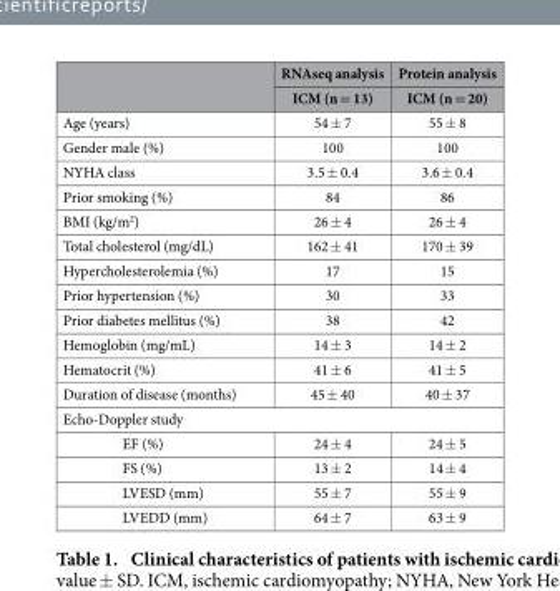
<table><thead><tr><td rowspan="2"></td><td rowspan="2">RNAseq analysis ICM (n = 13)</td><td rowspan="2">Protein analysis ICM (n = 20)</td></tr><tr></tr></thead><tbody><tr><td>Age (years)</td><td>54 ± 7</td><td>55 ± 8</td></tr><tr><td>Gender male (%)</td><td>100</td><td>100</td></tr><tr><td>NYHA class</td><td>3.5 ± 0.4</td><td>3.6 ± 0.4</td></tr><tr><td>Prior smoking (%)</td><td>84</td><td>86</td></tr><tr><td>BMI (kg/m<sup>2</sup>)</td><td>26 ± 4</td><td>26 ± 4</td></tr><tr><td>Total cholesterol (mg/dL)</td><td>162 ± 41</td><td>170 ± 39</td></tr><tr><td>Hypercholesterolemia (%)</td><td>17</td><td>15</td></tr><tr><td>Prior hypertension (%)</td><td>30</td><td>33</td></tr><tr><td>Prior diabetes mellitus (%)</td><td>38</td><td>42</td></tr><tr><td>Hemoglobin (mg/mL)</td><td>14 ± 3</td><td>14 ± 2</td></tr><tr><td>Hematocrit (%)</td><td>41 ± 6</td><td>41 ± 5</td></tr><tr><td>Duration of disease (months)</td><td>45 ± 40</td><td>40 ± 37</td></tr><tr><td colspan="3">Echo-Doppler study</td></tr><tr><td>EF (%)</td><td>24 ± 4</td><td>24 ± 5</td></tr><tr><td>FS (%)</td><td>13 ± 2</td><td>14 ± 4</td></tr><tr><td>LVESD (mm)</td><td>55 ± 7</td><td>55 ± 9</td></tr><tr><td>LVEDD (mm)</td><td>64 ± 7</td><td>63 ± 9</td></tr></tbody></table>